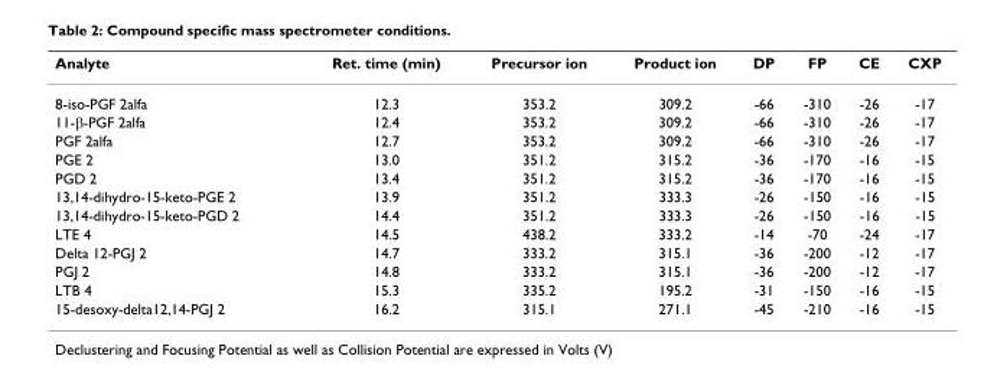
<table><thead><tr><td>Analyte</td><td>Ret. time (min)</td><td>Precursor ion</td><td>Product ion</td><td>DP</td><td>FP</td><td>CE</td><td>CXP</td></tr></thead><tbody><tr><td>8-iso-PGF 2alfa</td><td>12.3</td><td>353.2</td><td>309.2</td><td>-66</td><td>-310</td><td>-26</td><td>-17</td></tr><tr><td>11-β-PGF 2alfa</td><td>12.4</td><td>353.2</td><td>309.2</td><td>-66</td><td>-310</td><td>-26</td><td>-17</td></tr><tr><td>PGF 2alfa</td><td>12.7</td><td>353.2</td><td>309.2</td><td>-66</td><td>-310</td><td>-26</td><td>-17</td></tr><tr><td>PGE 2</td><td>13.0</td><td>351.2</td><td>315.2</td><td>-36</td><td>-170</td><td>-16</td><td>-15</td></tr><tr><td>PGD 2</td><td>13.4</td><td>351.2</td><td>315.2</td><td>-36</td><td>-170</td><td>-16</td><td>-15</td></tr><tr><td>13,14-dihydro-15-keto-PGE 2</td><td>13.9</td><td>351.2</td><td>333.3</td><td>-26</td><td>-150</td><td>-16</td><td>-15</td></tr><tr><td>13,14-dihydro-15-keto-PGD 2</td><td>14.4</td><td>351.2</td><td>333.3</td><td>-26</td><td>-150</td><td>-16</td><td>-15</td></tr><tr><td>LTE 4</td><td>14.5</td><td>438.2</td><td>333.2</td><td>-14</td><td>-70</td><td>-24</td><td>-17</td></tr><tr><td>Delta 12-PGJ 2</td><td>14.7</td><td>333.2</td><td>315.1</td><td>-36</td><td>-200</td><td>-12</td><td>-17</td></tr><tr><td>PGJ 2</td><td>14.8</td><td>333.2</td><td>315.1</td><td>-36</td><td>-200</td><td>-12</td><td>-17</td></tr><tr><td>LTB 4</td><td>15.3</td><td>335.2</td><td>195.2</td><td>-31</td><td>-150</td><td>-16</td><td>-15</td></tr><tr><td>15-desoxy-delta12,14-PGJ 2</td><td>16.2</td><td>315.1</td><td>271.1</td><td>-45</td><td>-210</td><td>-16</td><td>-15</td></tr></tbody></table>